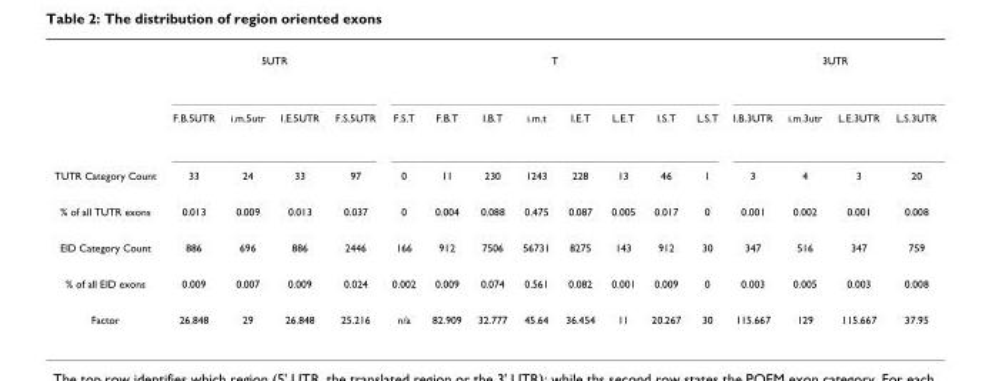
<table><thead><tr><td rowspan="2"></td><td colspan="4">5UTR</td><td colspan="8">T</td><td colspan="4">3UTR</td></tr><tr><td>F.B.5UTR</td><td>i.m.5utr</td><td>I.E.5UTR</td><td>F.S.5UTR</td><td>F.S.T</td><td>F.B.T</td><td>I.B.T</td><td>i.m.t</td><td>I.E.T</td><td>L.E.T</td><td>I.S.T</td><td>L.S.T</td><td>I.B.3UTR</td><td>i.m.3utr</td><td>L.E.3UTR</td><td>L.S.3UTR</td></tr></thead><tbody><tr><td>TUTR Category Count</td><td>33</td><td>24</td><td>33</td><td>97</td><td>0</td><td>11</td><td>230</td><td>1243</td><td>228</td><td>13</td><td>46</td><td>1</td><td>3</td><td>4</td><td>3</td><td>20</td></tr><tr><td>% of all TUTR exons</td><td>0.013</td><td>0.009</td><td>0.013</td><td>0.037</td><td>0</td><td>0.004</td><td>0.088</td><td>0.475</td><td>0.087</td><td>0.005</td><td>0.017</td><td>0</td><td>0.001</td><td>0.002</td><td>0.001</td><td>0.008</td></tr><tr><td>EID Category Count</td><td>886</td><td>696</td><td>886</td><td>2446</td><td>166</td><td>912</td><td>7506</td><td>56731</td><td>8275</td><td>143</td><td>912</td><td>30</td><td>347</td><td>516</td><td>347</td><td>759</td></tr><tr><td>% of all EID exons</td><td>0.009</td><td>0.007</td><td>0.009</td><td>0.024</td><td>0.002</td><td>0.009</td><td>0.074</td><td>0.561</td><td>0.082</td><td>0.001</td><td>0.009</td><td>0</td><td>0.003</td><td>0.005</td><td>0.003</td><td>0.008</td></tr><tr><td>Factor</td><td>26.848</td><td>29</td><td>26.848</td><td>25.216</td><td>n/a</td><td>82.909</td><td>32.777</td><td>45.64</td><td>36.454</td><td>11</td><td>20.267</td><td>30</td><td>115.667</td><td>129</td><td>115.667</td><td>37.95</td></tr></tbody></table>